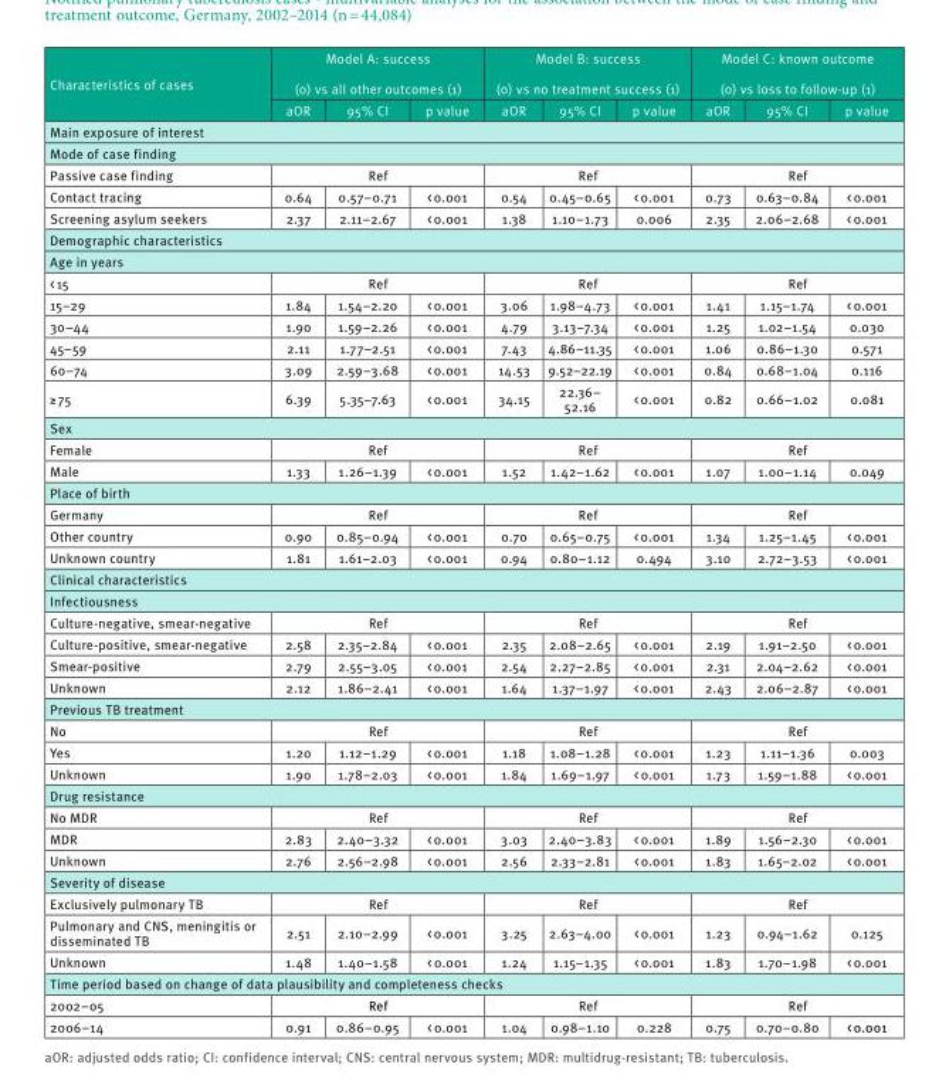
<table><thead><tr><td rowspan="2">Characteristics of cases</td><td colspan="3">Model A: success (0) vs all other outcomes (1)</td><td colspan="3">Model B: success (0) vs no treatment success (1)</td><td colspan="3">Model C: known outcome (0) vs loss to follow-up (1)</td></tr><tr><td>aOR</td><td>95% CI</td><td>p value</td><td>aOR</td><td>95% CI</td><td>p value</td><td>aOR</td><td>95% CI</td><td>p value</td></tr></thead><tbody><tr><td colspan="10">Main exposure of interest</td></tr><tr><td colspan="10">Mode of case finding</td></tr><tr><td>Passive case finding</td><td colspan="3">Ref</td><td colspan="3">Ref</td><td colspan="3">Ref</td></tr><tr><td>Contact tracing</td><td>0.64</td><td>0.57–0.71</td><td>&lt; 0.001</td><td>0.54</td><td>0.45–0.65</td><td>&lt; 0.001</td><td>0.73</td><td>0.63–0.84</td><td>&lt; 0.001</td></tr><tr><td>Screening asylum seekers</td><td>2.37</td><td>2.11–2.67</td><td>&lt; 0.001</td><td>1.38</td><td>1.10–1.73</td><td>0.006</td><td>2.35</td><td>2.06–2.68</td><td>&lt; 0.001</td></tr><tr><td colspan="10">Demographic characteristics</td></tr><tr><td colspan="10">Age in years</td></tr><tr><td>&lt; 15</td><td colspan="3">Ref</td><td colspan="3">Ref</td><td colspan="3">Ref</td></tr><tr><td>15–29</td><td>1.84</td><td>1.54–2.20</td><td>&lt; 0.001</td><td>3.06</td><td>1.98–4.73</td><td>&lt; 0.001</td><td>1.41</td><td>1.15–1.74</td><td>&lt; 0.001</td></tr><tr><td>30–44</td><td>1.90</td><td>1.59–2.26</td><td>&lt; 0.001</td><td>4.79</td><td>3.13–7.34</td><td>&lt; 0.001</td><td>1.25</td><td>1.02–1.54</td><td>0.030</td></tr><tr><td>45–59</td><td>2.11</td><td>1.77–2.51</td><td>&lt; 0.001</td><td>7.43</td><td>4.86–11.35</td><td>&lt; 0.001</td><td>1.06</td><td>0.86–1.30</td><td>0.571</td></tr><tr><td>60–74</td><td>3.09</td><td>2.59–3.68</td><td>&lt; 0.001</td><td>14.53</td><td>9.52–22.19</td><td>&lt; 0.001</td><td>0.84</td><td>0.68–1.04</td><td>0.116</td></tr><tr><td>≥ 75</td><td>6.39</td><td>5.35–7.63</td><td>&lt; 0.001</td><td>34.15</td><td>22.36– 52.16</td><td>&lt; 0.001</td><td>0.82</td><td>0.66–1.02</td><td>0.081</td></tr><tr><td colspan="10">Sex</td></tr><tr><td>Female</td><td colspan="3">Ref</td><td colspan="3">Ref</td><td colspan="3">Ref</td></tr><tr><td>Male</td><td>1.33</td><td>1.26–1.39</td><td>&lt; 0.001</td><td>1.52</td><td>1.42–1.62</td><td>&lt; 0.001</td><td>1.07</td><td>1.00–1.14</td><td>0.049</td></tr><tr><td colspan="10">Place of birth</td></tr><tr><td>Germany</td><td colspan="3">Ref</td><td colspan="3">Ref</td><td colspan="3">Ref</td></tr><tr><td>Other country</td><td>0.90</td><td>0.85–0.94</td><td>&lt; 0.001</td><td>0.70</td><td>0.65–0.75</td><td>&lt; 0.001</td><td>1.34</td><td>1.25–1.45</td><td>&lt; 0.001</td></tr><tr><td>Unknown country</td><td>1.81</td><td>1.61–2.03</td><td>&lt; 0.001</td><td>0.94</td><td>0.80–1.12</td><td>0.494</td><td>3.10</td><td>2.72–3.53</td><td>&lt; 0.001</td></tr><tr><td colspan="10">Clinical characteristics</td></tr><tr><td colspan="10">Infectiousness</td></tr><tr><td>Culture-negative, smear-negative</td><td colspan="3">Ref</td><td colspan="3">Ref</td><td colspan="3">Ref</td></tr><tr><td>Culture-positive, smear-negative</td><td>2.58</td><td>2.35–2.84</td><td>&lt; 0.001</td><td>2.35</td><td>2.08–2.65</td><td>&lt; 0.001</td><td>2.19</td><td>1.91–2.50</td><td>&lt; 0.001</td></tr><tr><td>Smear-positive</td><td>2.79</td><td>2.55–3.05</td><td>&lt; 0.001</td><td>2.54</td><td>2.27–2.85</td><td>&lt; 0.001</td><td>2.31</td><td>2.04–2.62</td><td>&lt; 0.001</td></tr><tr><td>Unknown</td><td>2.12</td><td>1.86–2.41</td><td>&lt; 0.001</td><td>1.64</td><td>1.37–1.97</td><td>&lt; 0.001</td><td>2.43</td><td>2.06–2.87</td><td>&lt; 0.001</td></tr><tr><td colspan="10">Previous TB treatment</td></tr><tr><td>No</td><td colspan="3">Ref</td><td colspan="3">Ref</td><td colspan="3">Ref</td></tr><tr><td>Yes</td><td>1.20</td><td>1.12–1.29</td><td>&lt; 0.001</td><td>1.18</td><td>1.08–1.28</td><td>&lt; 0.001</td><td>1.23</td><td>1.11–1.36</td><td>0.003</td></tr><tr><td>Unknown</td><td>1.90</td><td>1.78–2.03</td><td>&lt; 0.001</td><td>1.84</td><td>1.69–1.97</td><td>&lt; 0.001</td><td>1.73</td><td>1.59–1.88</td><td>&lt; 0.001</td></tr><tr><td colspan="10">Drug resistance</td></tr><tr><td>No MDR</td><td colspan="3">Ref</td><td colspan="3">Ref</td><td colspan="3">Ref</td></tr><tr><td>MDR</td><td>2.83</td><td>2.40–3.32</td><td>&lt; 0.001</td><td>3.03</td><td>2.40–3.83</td><td>&lt; 0.001</td><td>1.89</td><td>1.56–2.30</td><td>&lt; 0.001</td></tr><tr><td>Unknown</td><td>2.76</td><td>2.56–2.98</td><td>&lt; 0.001</td><td>2.56</td><td>2.33–2.81</td><td>&lt; 0.001</td><td>1.83</td><td>1.65–2.02</td><td>&lt; 0.001</td></tr><tr><td colspan="10">Severity of disease</td></tr><tr><td>Exclusively pulmonary TB</td><td colspan="3">Ref</td><td colspan="3">Ref</td><td colspan="3">Ref</td></tr><tr><td>Pulmonary and CNS, meningitis or disseminated TB</td><td>2.51</td><td>2.10–2.99</td><td>&lt; 0.001</td><td>3.25</td><td>2.63–4.00</td><td>&lt; 0.001</td><td>1.23</td><td>0.94–1.62</td><td>0.125</td></tr><tr><td>Unknown</td><td>1.48</td><td>1.40–1.58</td><td>&lt; 0.001</td><td>1.24</td><td>1.15–1.35</td><td>&lt; 0.001</td><td>1.83</td><td>1.70–1.98</td><td>&lt; 0.001</td></tr><tr><td colspan="10">Time period based on change of data plausibility and completeness checks</td></tr><tr><td>2002–05</td><td colspan="3">Ref</td><td colspan="3">Ref</td><td colspan="3">Ref</td></tr><tr><td>2006–14</td><td>0.91</td><td>0.86–0.95</td><td>&lt; 0.001</td><td>1.04</td><td>0.98–1.10</td><td>0.228</td><td>0.75</td><td>0.70–0.80</td><td>&lt; 0.001</td></tr></tbody></table>